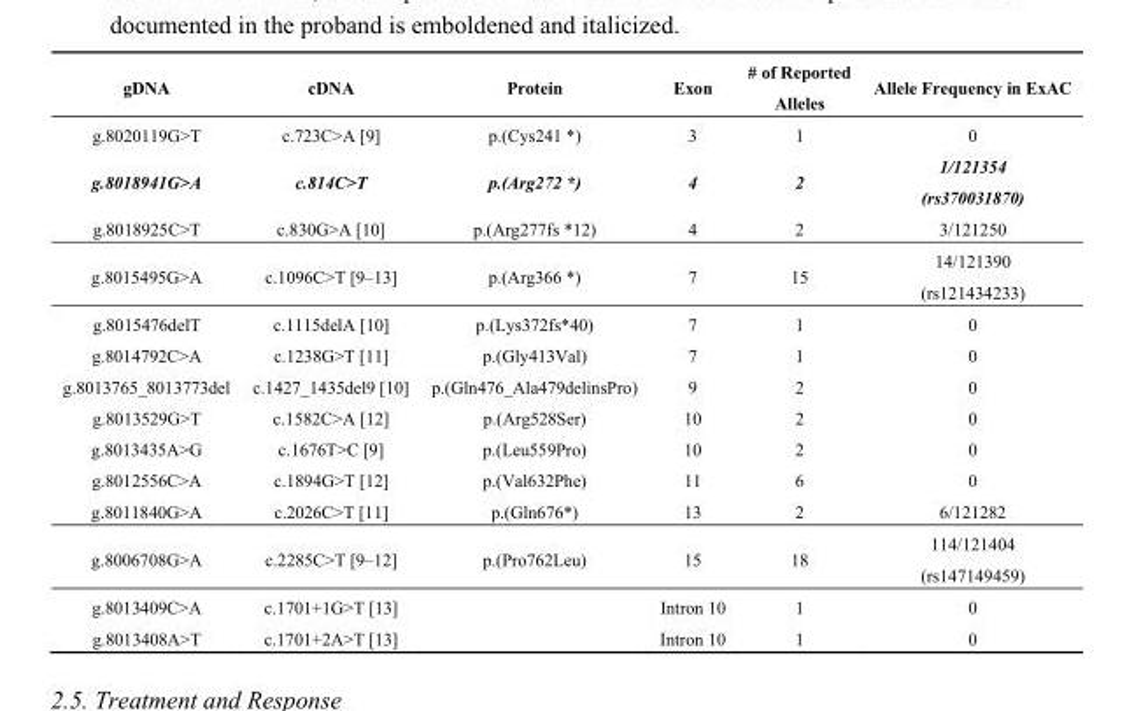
<table><thead><tr><td>gDNA</td><td>cDNA</td><td>Protein</td><td>Exon</td><td># of Reported Alleles</td><td>Allele Frequency in ExAC</td></tr></thead><tbody><tr><td>g.8020119G&gt;T</td><td>c.723C&gt;A [9]</td><td>p.(Cys241 *)</td><td>3</td><td>1</td><td>0</td></tr><tr><td>g.8018941G&gt;A</td><td>c.814C&gt;T</td><td>p.(Arg272 *)</td><td>4</td><td>2</td><td>1/121354 (rs370031870)</td></tr><tr><td>g.8018925C&gt;T</td><td>c.830G&gt;A [10]</td><td>p.(Arg277fs *12)</td><td>4</td><td>2</td><td>3/121250</td></tr><tr><td>g.8015495G&gt;A</td><td>c.1096C&gt;T [9–13]</td><td>p.(Arg366 *)</td><td>7</td><td>15</td><td>14/121390 (rs121434233)</td></tr><tr><td>g.8015476delT</td><td>c.1115delA [10]</td><td>p.(Lys372fs*40)</td><td>7</td><td>1</td><td>0</td></tr><tr><td>g.8014792C&gt;A</td><td>c.1238G&gt;T [11]</td><td>p.(Gly413Val)</td><td>7</td><td>1</td><td>0</td></tr><tr><td>g.8013765_8013773del</td><td>c.1427_1435del9 [10]</td><td>p.(Gln476_Ala479delinsPro)</td><td>9</td><td>2</td><td>0</td></tr><tr><td>g.8013529G&gt;T</td><td>c.1582C&gt;A [12]</td><td>p.(Arg528Ser)</td><td>10</td><td>2</td><td>0</td></tr><tr><td>g.8013435A&gt;G</td><td>c.1676T&gt;C [9]</td><td>p.(Leu559Pro)</td><td>10</td><td>2</td><td>0</td></tr><tr><td>g.8012556C&gt;A</td><td>c.1894G&gt;T [12]</td><td>p.(Val632Phe)</td><td>11</td><td>6</td><td>0</td></tr><tr><td>g.8011840G&gt;A</td><td>c.2026C&gt;T [11]</td><td>p.(Gln676*)</td><td>13</td><td>2</td><td>6/121282</td></tr><tr><td>g.8006708G&gt;A</td><td>c.2285C&gt;T [9–12]</td><td>p.(Pro762Leu)</td><td>15</td><td>18</td><td>114/121404 (rs147149459)</td></tr><tr><td>g.8013409C&gt;A</td><td>c.1701+1G&gt;T [13]</td><td></td><td>Intron 10</td><td>1</td><td>0</td></tr><tr><td>g.8013408A&gt;T</td><td>c.1701+2A&gt;T [13]</td><td></td><td>Intron 10</td><td>1</td><td>0</td></tr></tbody></table>